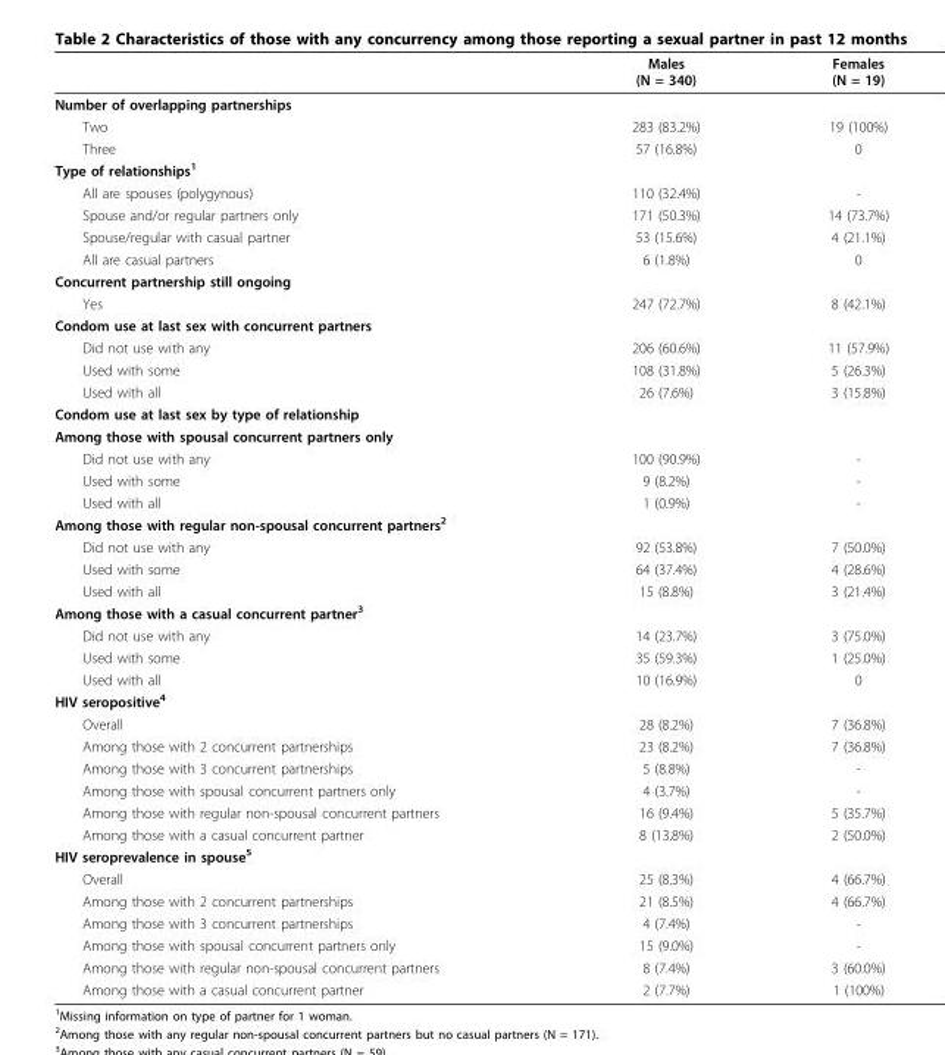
<table><thead><tr><td></td><td>Males (N = 340)</td><td>Females (N = 19)</td></tr></thead><tbody><tr><td colspan="3">Number of overlapping partnerships</td></tr><tr><td>Two</td><td>283 (83.2%)</td><td>19 (100%)</td></tr><tr><td>Three</td><td>57 (16.8%)</td><td>0</td></tr><tr><td colspan="3">Type of relationships<sup>1</sup></td></tr><tr><td>All are spouses (polygynous)</td><td>110 (32.4%)</td><td>-</td></tr><tr><td>Spouse and/or regular partners only</td><td>171 (50.3%)</td><td>14 (73.7%)</td></tr><tr><td>Spouse/regular with casual partner</td><td>53 (15.6%)</td><td>4 (21.1%)</td></tr><tr><td>All are casual partners</td><td>6 (1.8%)</td><td>0</td></tr><tr><td colspan="3">Concurrent partnership still ongoing</td></tr><tr><td>Yes</td><td>247 (72.7%)</td><td>8 (42.1%)</td></tr><tr><td colspan="3">Condom use at last sex with concurrent partners</td></tr><tr><td>Did not use with any</td><td>206 (60.6%)</td><td>11 (57.9%)</td></tr><tr><td>Used with some</td><td>108 (31.8%)</td><td>5 (26.3%)</td></tr><tr><td>Used with all</td><td>26 (7.6%)</td><td>3 (15.8%)</td></tr><tr><td colspan="3">Condom use at last sex by type of relationship</td></tr><tr><td colspan="3">Among those with spousal concurrent partners only</td></tr><tr><td>Did not use with any</td><td>100 (90.9%)</td><td>-</td></tr><tr><td>Used with some</td><td>9 (8.2%)</td><td>-</td></tr><tr><td>Used with all</td><td>1 (0.9%)</td><td>-</td></tr><tr><td colspan="3">Among those with regular non-spousal concurrent partners<sup>2</sup></td></tr><tr><td>Did not use with any</td><td>92 (53.8%)</td><td>7 (50.0%)</td></tr><tr><td>Used with some</td><td>64 (37.4%)</td><td>4 (28.6%)</td></tr><tr><td>Used with all</td><td>15 (8.8%)</td><td>3 (21.4%)</td></tr><tr><td colspan="3">Among those with a casual concurrent partner<sup>3</sup></td></tr><tr><td>Did not use with any</td><td>14 (23.7%)</td><td>3 (75.0%)</td></tr><tr><td>Used with some</td><td>35 (59.3%)</td><td>1 (25.0%)</td></tr><tr><td>Used with all</td><td>10 (16.9%)</td><td>0</td></tr><tr><td colspan="3">HIV seropositive<sup>4</sup></td></tr><tr><td>Overall</td><td>28 (8.2%)</td><td>7 (36.8%)</td></tr><tr><td>Among those with 2 concurrent partnerships</td><td>23 (8.2%)</td><td>7 (36.8%)</td></tr><tr><td>Among those with 3 concurrent partnerships</td><td>5 (8.8%)</td><td>-</td></tr><tr><td>Among those with spousal concurrent partners only</td><td>4 (3.7%)</td><td>-</td></tr><tr><td>Among those with regular non-spousal concurrent partners</td><td>16 (9.4%)</td><td>5 (35.7%)</td></tr><tr><td>Among those with a casual concurrent partner</td><td>8 (13.8%)</td><td>2 (50.0%)</td></tr><tr><td colspan="3">HIV seroprevalence in spouse<sup>5</sup></td></tr><tr><td>Overall</td><td>25 (8.3%)</td><td>4 (66.7%)</td></tr><tr><td>Among those with 2 concurrent partnerships</td><td>21 (8.5%)</td><td>4 (66.7%)</td></tr><tr><td>Among those with 3 concurrent partnerships</td><td>4 (7.4%)</td><td>-</td></tr><tr><td>Among those with spousal concurrent partners only</td><td>15 (9.0%)</td><td>-</td></tr><tr><td>Among those with regular non-spousal concurrent partners</td><td>8 (7.4%)</td><td>3 (60.0%)</td></tr><tr><td>Among those with a casual concurrent partner</td><td>2 (7.7%)</td><td>1 (100%)</td></tr></tbody></table>